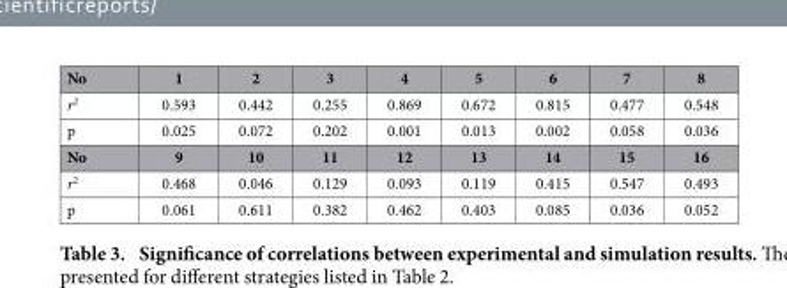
<table><thead><tr><td>No</td><td>1</td><td>2</td><td>3</td><td>4</td><td>5</td><td>6</td><td>7</td><td>8</td></tr></thead><tbody><tr><td>r<sup>2</sup></td><td>0.593</td><td>0.442</td><td>0.255</td><td>0.869</td><td>0.672</td><td>0.815</td><td>0.477</td><td>0.548</td></tr><tr><td>p</td><td>0.025</td><td>0.072</td><td>0.202</td><td>0.001</td><td>0.013</td><td>0.002</td><td>0.058</td><td>0.036</td></tr><tr><td>No</td><td>9</td><td>10</td><td>11</td><td>12</td><td>13</td><td>14</td><td>15</td><td>16</td></tr><tr><td>r<sup>2</sup></td><td>0.468</td><td>0.046</td><td>0.129</td><td>0.093</td><td>0.119</td><td>0.415</td><td>0.547</td><td>0.493</td></tr><tr><td>p</td><td>0.061</td><td>0.611</td><td>0.382</td><td>0.462</td><td>0.403</td><td>0.085</td><td>0.036</td><td>0.052</td></tr></tbody></table>